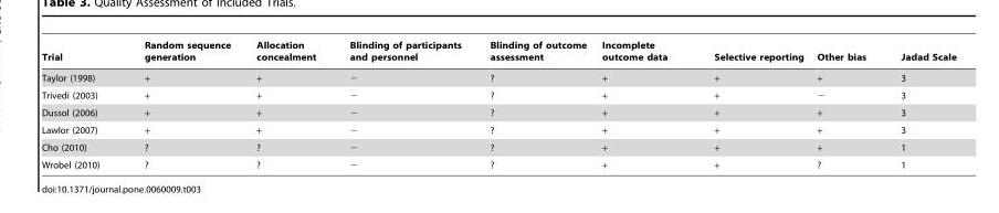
<table><thead><tr><td>Trial</td><td>Random sequence generation</td><td>Allocation concealment</td><td>Blinding of participants and personnel</td><td>Blinding of outcome assessment</td><td>Incomplete outcome data</td><td>Selective reporting</td><td>Other bias</td><td>Jadad Scale</td></tr></thead><tbody><tr><td>Taylor (1998)</td><td>+</td><td>+</td><td>−</td><td>?</td><td>+</td><td>+</td><td>+</td><td>3</td></tr><tr><td>Trivedi (2003)</td><td>+</td><td>+</td><td>−</td><td>?</td><td>+</td><td>+</td><td>−</td><td>3</td></tr><tr><td>Dussol (2006)</td><td>+</td><td>+</td><td>−</td><td>?</td><td>+</td><td>+</td><td>+</td><td>3</td></tr><tr><td>Lawlor (2007)</td><td>+</td><td>+</td><td>−</td><td>?</td><td>+</td><td>+</td><td>+</td><td>3</td></tr><tr><td>Cho (2010)</td><td>?</td><td>?</td><td>−</td><td>?</td><td>+</td><td>+</td><td>+</td><td>1</td></tr><tr><td>Wrobel (2010)</td><td>?</td><td>?</td><td>−</td><td>?</td><td>+</td><td>+</td><td>?</td><td>1</td></tr></tbody></table>